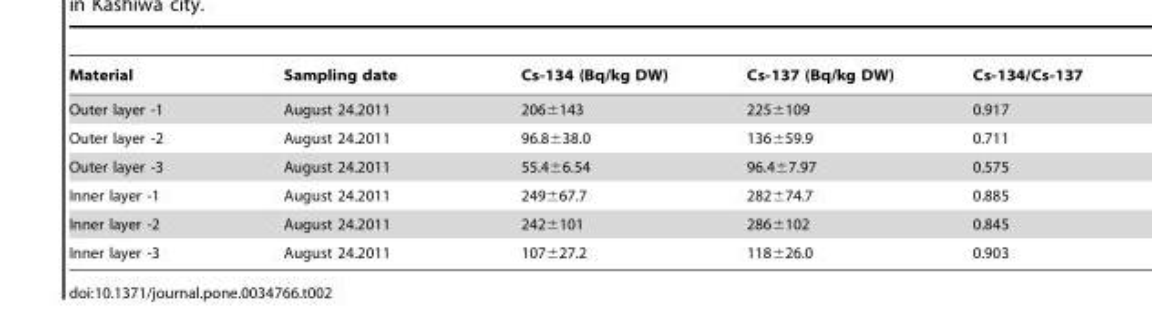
<table><thead><tr><td>Material</td><td>Sampling date</td><td>Cs-134 (Bq/kg DW)</td><td>Cs-137 (Bq/kg DW)</td><td>Cs-134/Cs-137</td></tr></thead><tbody><tr><td>Outer layer -1</td><td>August 24.2011</td><td>206±143</td><td>225±109</td><td>0.917</td></tr><tr><td>Outer layer -2</td><td>August 24.2011</td><td>96.8±38.0</td><td>136±59.9</td><td>0.711</td></tr><tr><td>Outer layer -3</td><td>August 24.2011</td><td>55.4±6.54</td><td>96.4±7.97</td><td>0.575</td></tr><tr><td>Inner layer -1</td><td>August 24.2011</td><td>249±67.7</td><td>282±74.7</td><td>0.885</td></tr><tr><td>Inner layer -2</td><td>August 24.2011</td><td>242±101</td><td>286±102</td><td>0.845</td></tr><tr><td>Inner layer -3</td><td>August 24.2011</td><td>107±27.2</td><td>118±26.0</td><td>0.903</td></tr></tbody></table>